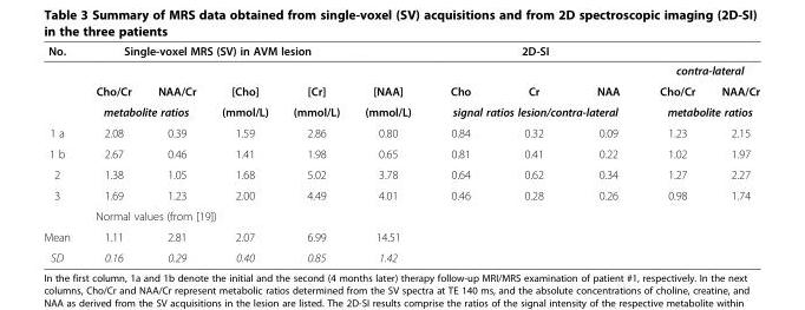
<table><thead><tr><td rowspan="2">No.</td><td colspan="4">Single-voxel MRS (SV) in AVM lesion</td><td rowspan="2"></td><td colspan="3">2D-SI</td><td></td><td></td></tr><tr><td></td><td></td><td></td><td></td><td></td><td></td><td></td><td colspan="2">contra-lateral</td></tr></thead><tbody><tr><td></td><td>Cho/Cr</td><td>NAA/Cr</td><td>[Cho]</td><td>[Cr]</td><td>[NAA]</td><td>Cho</td><td>Cr</td><td>NAA</td><td>Cho/Cr</td><td>NAA/Cr</td></tr><tr><td></td><td colspan="2">metabolite ratios</td><td>(mmol/L)</td><td>(mmol/L)</td><td>(mmol/L)</td><td colspan="3">signal ratios lesion/contra-lateral</td><td colspan="2">metabolite ratios</td></tr><tr><td>1 a</td><td>2.08</td><td>0.39</td><td>1.59</td><td>2.86</td><td>0.80</td><td>0.84</td><td>0.32</td><td>0.09</td><td>1.23</td><td>2.15</td></tr><tr><td>1 b</td><td>2.67</td><td>0.46</td><td>1.41</td><td>1.98</td><td>0.65</td><td>0.81</td><td>0.41</td><td>0.22</td><td>1.02</td><td>1.97</td></tr><tr><td>2</td><td>1.38</td><td>1.05</td><td>1.68</td><td>5.02</td><td>3.78</td><td>0.64</td><td>0.62</td><td>0.34</td><td>1.27</td><td>2.27</td></tr><tr><td>3</td><td>1.69</td><td>1.23</td><td>2.00</td><td>4.49</td><td>4.01</td><td>0.46</td><td>0.28</td><td>0.26</td><td>0.98</td><td>1.74</td></tr><tr><td colspan="11">Normal values (from [19])</td></tr><tr><td>Mean</td><td>1.11</td><td>2.81</td><td>2.07</td><td>6.99</td><td>14.51</td><td></td><td></td><td></td><td></td><td></td></tr><tr><td>SD</td><td>0.16</td><td>0.29</td><td>0.40</td><td>0.85</td><td>1.42</td><td></td><td></td><td></td><td></td><td></td></tr></tbody></table>